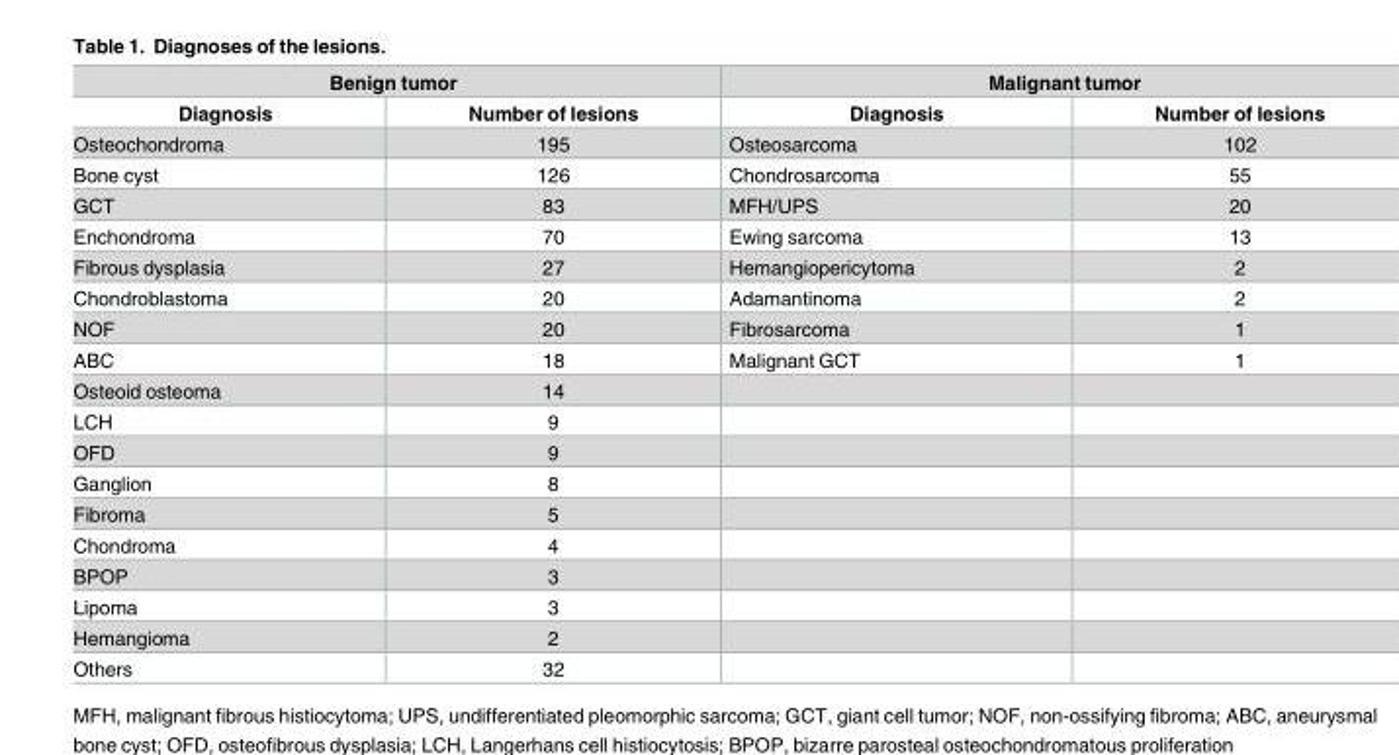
<table><thead><tr><td colspan="2">Benign tumor</td><td colspan="2">Malignant tumor</td></tr><tr><td>Diagnosis</td><td>Number of lesions</td><td>Diagnosis</td><td>Number of lesions</td></tr></thead><tbody><tr><td>Osteochondroma</td><td>195</td><td>Osteosarcoma</td><td>102</td></tr><tr><td>Bone cyst</td><td>126</td><td>Chondrosarcoma</td><td>55</td></tr><tr><td>GCT</td><td>83</td><td>MFH/UPS</td><td>20</td></tr><tr><td>Enchondroma</td><td>70</td><td>Ewing sarcoma</td><td>13</td></tr><tr><td>Fibrous dysplasia</td><td>27</td><td>Hemangiopericytoma</td><td>2</td></tr><tr><td>Chondroblastoma</td><td>20</td><td>Adamantinoma</td><td>2</td></tr><tr><td>NOF</td><td>20</td><td>Fibrosarcoma</td><td>1</td></tr><tr><td>ABC</td><td>18</td><td>Malignant GCT</td><td>1</td></tr><tr><td>Osteoid osteoma</td><td>14</td><td></td><td></td></tr><tr><td>LCH</td><td>9</td><td></td><td></td></tr><tr><td>OFD</td><td>9</td><td></td><td></td></tr><tr><td>Ganglion</td><td>8</td><td></td><td></td></tr><tr><td>Fibroma</td><td>5</td><td></td><td></td></tr><tr><td>Chondroma</td><td>4</td><td></td><td></td></tr><tr><td>BPOP</td><td>3</td><td></td><td></td></tr><tr><td>Lipoma</td><td>3</td><td></td><td></td></tr><tr><td>Hemangioma</td><td>2</td><td></td><td></td></tr><tr><td>Others</td><td>32</td><td></td><td></td></tr></tbody></table>